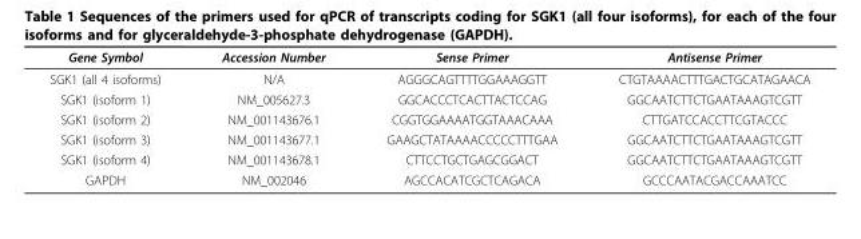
<table><thead><tr><td>Gene Symbol</td><td>Accession Number</td><td>Sense Primer</td><td>Antisense Primer</td></tr></thead><tbody><tr><td>SGK1 (all 4 isoforms)</td><td>N/A</td><td>AGGGCAGTTTTGGAAAGGTT</td><td>CTGTAAAACTTTGACTGCATAGAACA</td></tr><tr><td>SGK1 (isoform 1)</td><td>NM_005627.3</td><td>GGCACCCTCACTTACTCCAG</td><td>GGCAATCTTCTGAATAAAGTCGTT</td></tr><tr><td>SGK1 (isoform 2)</td><td>NM_001143676.1</td><td>CGGTGGAAAATGGTAAACAAA</td><td>CTTGATCCACCTTCGTACCC</td></tr><tr><td>SGK1 (isoform 3)</td><td>NM_001143677.1</td><td>GAAGCTATAAAACCCCCTTTGAA</td><td>GGCAATCTTCTGAATAAAGTCGTT</td></tr><tr><td>SGK1 (isoform 4)</td><td>NM_001143678.1</td><td>CTTCCTGCTGAGCGGACT</td><td>GGCAATCTTCTGAATAAAGTCGTT</td></tr><tr><td>GAPDH</td><td>NM_002046</td><td>AGCCACATCGCTCAGACA</td><td>GCCCAATACGACCAAATCC</td></tr></tbody></table>